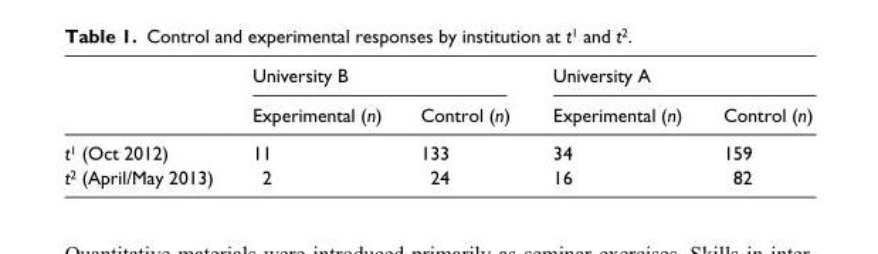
<table><thead><tr><td rowspan="2"></td><td colspan="2">University B</td><td colspan="2">University A</td></tr><tr><td>Experimental (n)</td><td>Control (n)</td><td>Experimental (n)</td><td>Control (n)</td></tr></thead><tbody><tr><td>t<sup>1</sup> (Oct 2012)</td><td>11</td><td>133</td><td>34</td><td>159</td></tr><tr><td>t<sup>2</sup> (April/May 2013)</td><td>2</td><td>24</td><td>16</td><td>82</td></tr></tbody></table>